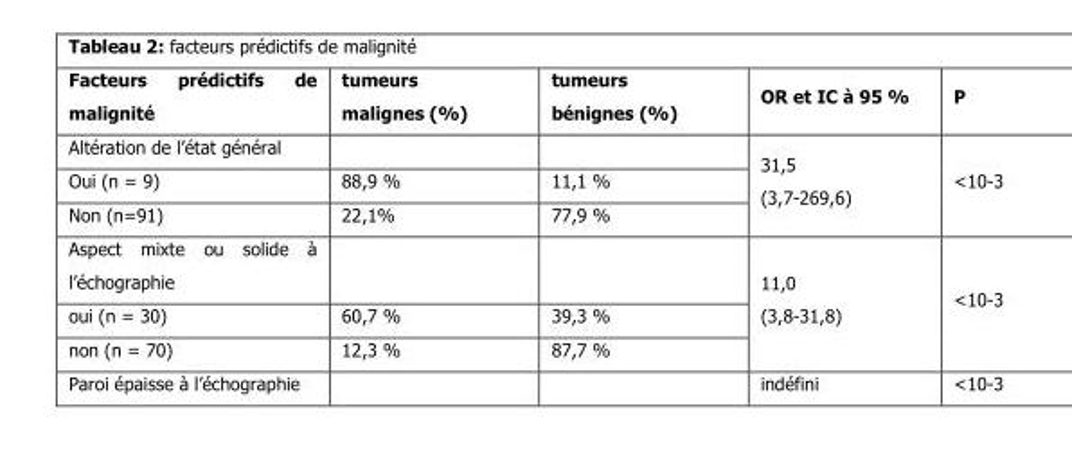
<table><thead><tr><td>Facteurs prédictifs de malignité</td><td>tumeurs malignes (%)</td><td>tumeurs bénignes (%)</td><td>OR et IC à 95 %</td><td>P</td></tr></thead><tbody><tr><td colspan="3">Altération de l’état général</td><td rowspan="3">31,5 (3,7-269,6)</td><td rowspan="3">&lt;10-3</td></tr><tr><td>Oui (n = 9)</td><td>88,9 %</td><td>11,1 %</td></tr><tr><td>Non (n=91)</td><td>22,1%</td><td>77,9 %</td></tr><tr><td colspan="3">Aspect mixte ou solide à l’échographie</td><td rowspan="3">11,0 (3,8-31,8)</td><td rowspan="3">&lt;10-3</td></tr><tr><td>oui (n = 30)</td><td>60,7 %</td><td>39,3 %</td></tr><tr><td>non (n = 70)</td><td>12,3 %</td><td>87,7 %</td></tr><tr><td>Paroi épaisse à l’échographie</td><td></td><td></td><td>indéfini</td><td>&lt;10-3</td></tr></tbody></table>